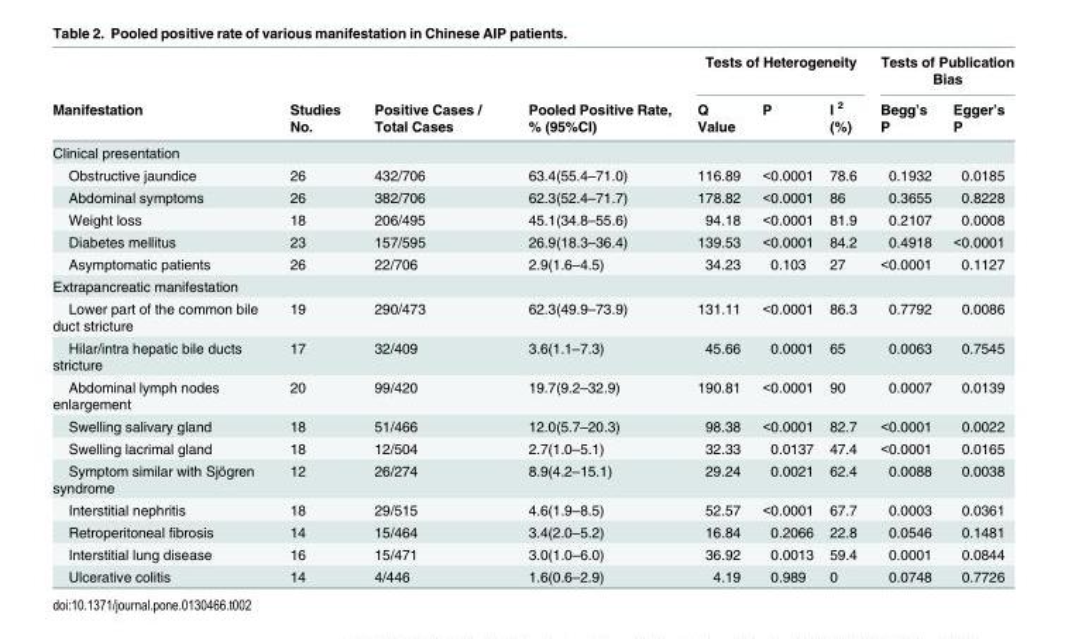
<table><thead><tr><td rowspan="2">Manifestation</td><td rowspan="2">Studies No.</td><td rowspan="2">Positive Cases / Total Cases</td><td rowspan="2">Pooled Positive Rate, % (95%CI)</td><td colspan="3">Tests of Heterogeneity</td><td colspan="2">Tests of Publication Bias</td></tr><tr><td>Q Value</td><td>P</td><td>I <sup>2</sup> (%)</td><td>Begg’s P</td><td>Egger’s P</td></tr></thead><tbody><tr><td colspan="9">Clinical presentation</td></tr><tr><td>Obstructive jaundice</td><td>26</td><td>432/706</td><td>63.4(55.4–71.0)</td><td>116.89</td><td>&lt;0.0001</td><td>78.6</td><td>0.1932</td><td>0.0185</td></tr><tr><td>Abdominal symptoms</td><td>26</td><td>382/706</td><td>62.3(52.4–71.7)</td><td>178.82</td><td>&lt;0.0001</td><td>86</td><td>0.3655</td><td>0.8228</td></tr><tr><td>Weight loss</td><td>18</td><td>206/495</td><td>45.1(34.8–55.6)</td><td>94.18</td><td>&lt;0.0001</td><td>81.9</td><td>0.2107</td><td>0.0008</td></tr><tr><td>Diabetes mellitus</td><td>23</td><td>157/595</td><td>26.9(18.3–36.4)</td><td>139.53</td><td>&lt;0.0001</td><td>84.2</td><td>0.4918</td><td>&lt;0.0001</td></tr><tr><td>Asymptomatic patients</td><td>26</td><td>22/706</td><td>2.9(1.6–4.5)</td><td>34.23</td><td>0.103</td><td>27</td><td>&lt;0.0001</td><td>0.1127</td></tr><tr><td colspan="9">Extrapancreatic manifestation</td></tr><tr><td>Lower part of the common bile duct stricture</td><td>19</td><td>290/473</td><td>62.3(49.9–73.9)</td><td>131.11</td><td>&lt;0.0001</td><td>86.3</td><td>0.7792</td><td>0.0086</td></tr><tr><td>Hilar/intra hepatic bile ducts stricture</td><td>17</td><td>32/409</td><td>3.6(1.1–7.3)</td><td>45.66</td><td>0.0001</td><td>65</td><td>0.0063</td><td>0.7545</td></tr><tr><td>Abdominal lymph nodes enlargement</td><td>20</td><td>99/420</td><td>19.7(9.2–32.9)</td><td>190.81</td><td>&lt;0.0001</td><td>90</td><td>0.0007</td><td>0.0139</td></tr><tr><td>Swelling salivary gland</td><td>18</td><td>51/466</td><td>12.0(5.7–20.3)</td><td>98.38</td><td>&lt;0.0001</td><td>82.7</td><td>&lt;0.0001</td><td>0.0022</td></tr><tr><td>Swelling lacrimal gland</td><td>18</td><td>12/504</td><td>2.7(1.0–5.1)</td><td>32.33</td><td>0.0137</td><td>47.4</td><td>&lt;0.0001</td><td>0.0165</td></tr><tr><td>Symptom similar with Sjögren syndrome</td><td>12</td><td>26/274</td><td>8.9(4.2–15.1)</td><td>29.24</td><td>0.0021</td><td>62.4</td><td>0.0088</td><td>0.0038</td></tr><tr><td>Interstitial nephritis</td><td>18</td><td>29/515</td><td>4.6(1.9–8.5)</td><td>52.57</td><td>&lt;0.0001</td><td>67.7</td><td>0.0003</td><td>0.0361</td></tr><tr><td>Retroperitoneal fibrosis</td><td>14</td><td>15/464</td><td>3.4(2.0–5.2)</td><td>16.84</td><td>0.2066</td><td>22.8</td><td>0.0546</td><td>0.1481</td></tr><tr><td>Interstitial lung disease</td><td>16</td><td>15/471</td><td>3.0(1.0–6.0)</td><td>36.92</td><td>0.0013</td><td>59.4</td><td>0.0001</td><td>0.0844</td></tr><tr><td>Ulcerative colitis</td><td>14</td><td>4/446</td><td>1.6(0.6–2.9)</td><td>4.19</td><td>0.989</td><td>0</td><td>0.0748</td><td>0.7726</td></tr></tbody></table>